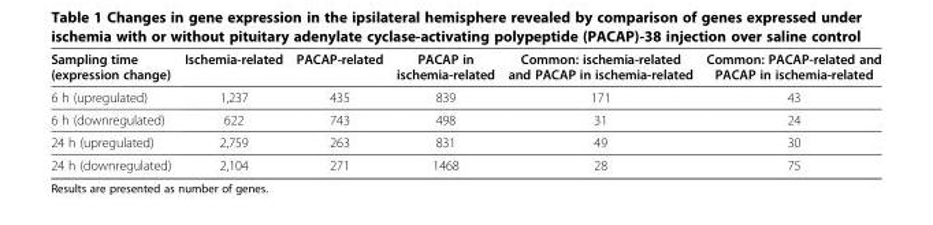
<table><thead><tr><td>Sampling time (expression change)</td><td>Ischemia-related</td><td>PACAP-related</td><td>PACAP in ischemia-related</td><td>Common: ischemia-related and PACAP in ischemia-related</td><td>Common: PACAP-related and PACAP in ischemia-related</td></tr></thead><tbody><tr><td>6 h (upregulated)</td><td>1,237</td><td>435</td><td>839</td><td>171</td><td>43</td></tr><tr><td>6 h (downregulated)</td><td>622</td><td>743</td><td>498</td><td>31</td><td>24</td></tr><tr><td>24 h (upregulated)</td><td>2,759</td><td>263</td><td>831</td><td>49</td><td>30</td></tr><tr><td>24 h (downregulated)</td><td>2,104</td><td>271</td><td>1468</td><td>28</td><td>75</td></tr></tbody></table>